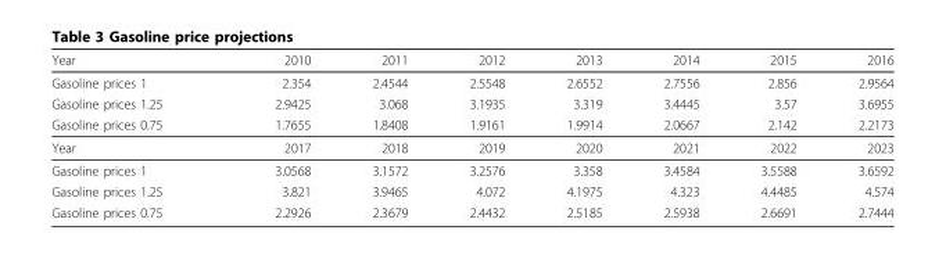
<table><thead><tr><td>Year</td><td>2010</td><td>2011</td><td>2012</td><td>2013</td><td>2014</td><td>2015</td><td>2016</td></tr></thead><tbody><tr><td>Gasoline prices 1</td><td>2.354</td><td>2.4544</td><td>2.5548</td><td>2.6552</td><td>2.7556</td><td>2.856</td><td>2.9564</td></tr><tr><td>Gasoline prices 1.25</td><td>2.9425</td><td>3.068</td><td>3.1935</td><td>3.319</td><td>3.4445</td><td>3.57</td><td>3.6955</td></tr><tr><td>Gasoline prices 0.75</td><td>1.7655</td><td>1.8408</td><td>1.9161</td><td>1.9914</td><td>2.0667</td><td>2.142</td><td>2.2173</td></tr><tr><td>Year</td><td>2017</td><td>2018</td><td>2019</td><td>2020</td><td>2021</td><td>2022</td><td>2023</td></tr><tr><td>Gasoline prices 1</td><td>3.0568</td><td>3.1572</td><td>3.2576</td><td>3.358</td><td>3.4584</td><td>3.5588</td><td>3.6592</td></tr><tr><td>Gasoline prices 1.25</td><td>3.821</td><td>3.9465</td><td>4.072</td><td>4.1975</td><td>4.323</td><td>4.4485</td><td>4.574</td></tr><tr><td>Gasoline prices 0.75</td><td>2.2926</td><td>2.3679</td><td>2.4432</td><td>2.5185</td><td>2.5938</td><td>2.6691</td><td>2.7444</td></tr></tbody></table>